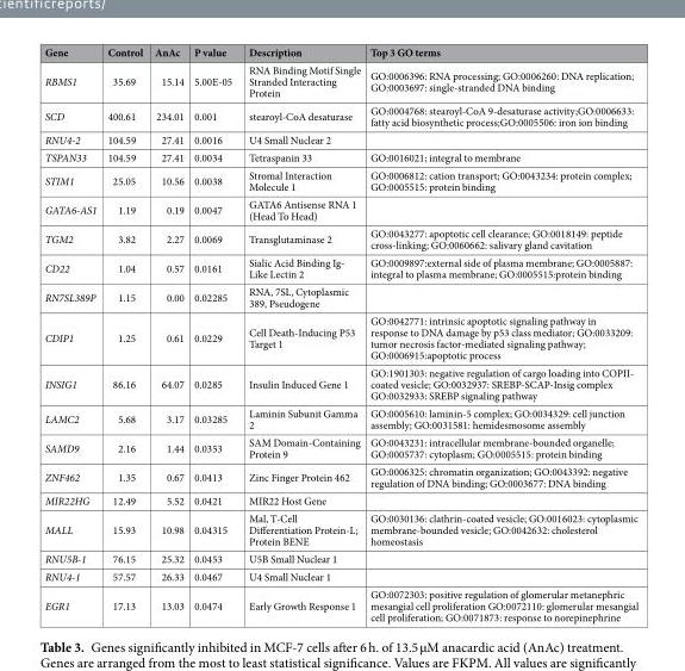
<table><thead><tr><td>Gene</td><td>Control</td><td>AnAc</td><td>P value</td><td>Description</td><td>Top 3 GO terms</td></tr></thead><tbody><tr><td>RBMS1</td><td>35.69</td><td>15.14</td><td>5.00E-05</td><td>RNA Binding Motif Single Stranded Interacting Protein</td><td>GO:0006396: RNA processing; GO:0006260: DNA replication; GO:0003697: single-stranded DNA binding</td></tr><tr><td>SCD</td><td>400.61</td><td>234.01</td><td>0.001</td><td>stearoyl-CoA desaturase</td><td>GO:0004768: stearoyl-CoA 9-desaturase activity;GO:0006633: fatty acid biosynthetic process;GO:0005506: iron ion binding</td></tr><tr><td>RNU4-2</td><td>104.59</td><td>27.41</td><td>0.0016</td><td>U4 Small Nuclear 2</td><td></td></tr><tr><td>TSPAN33</td><td>104.59</td><td>27.41</td><td>0.0034</td><td>Tetraspanin 33</td><td>GO:0016021; integral to membrane</td></tr><tr><td>STIM1</td><td>25.05</td><td>10.56</td><td>0.0038</td><td>Stromal Interaction Molecule 1</td><td>GO:0006812: cation transport; GO:0043234: protein complex; GO:0005515: protein binding</td></tr><tr><td>GATA6-AS1</td><td>1.19</td><td>0.19</td><td>0.0047</td><td>GATA6 Antisense RNA 1 (Head To Head)</td><td></td></tr><tr><td>TGM2</td><td>3.82</td><td>2.27</td><td>0.0069</td><td>Transglutaminase 2</td><td>GO:0043277: apoptotic cell clearance; GO:0018149: peptide cross-linking; GO:0060662: salivary gland cavitation</td></tr><tr><td>CD22</td><td>1.04</td><td>0.57</td><td>0.0161</td><td>Sialic Acid Binding Ig- Like Lectin 2</td><td>GO:0009897:external side of plasma membrane; GO:0005887: integral to plasma membrane; GO:0005515:protein binding</td></tr><tr><td>RN7SL389P</td><td>1.15</td><td>0.00</td><td>0.02285</td><td>RNA, 7SL, Cytoplasmic 389, Pseudogene</td><td></td></tr><tr><td>CDIP1</td><td>1.25</td><td>0.61</td><td>0.0229</td><td>Cell Death-Inducing P53 Target 1</td><td>GO:0042771: intrinsic apoptotic signaling pathway in response to DNA damage by p53 class mediator; GO:0033209: tumor necrosis factor-mediated signaling pathway; GO:0006915:apoptotic process</td></tr><tr><td>INSIG1</td><td>86.16</td><td>64.07</td><td>0.0285</td><td>Insulin Induced Gene 1</td><td>GO:1901303: negative regulation of cargo loading into COPII- coated vesicle; GO:0032937: SREBP-SCAP-Insig complex GO:0032933: SREBP signaling pathway</td></tr><tr><td>LAMC2</td><td>5.68</td><td>3.17</td><td>0.03285</td><td>Laminin Subunit Gamma 2</td><td>GO:0005610: laminin-5 complex; GO:0034329: cell junction assembly; GO:0031581: hemidesmosome assembly</td></tr><tr><td>SAMD9</td><td>2.16</td><td>1.44</td><td>0.0353</td><td>SAM Domain-Containing Protein 9</td><td>GO:0043231: intracellular membrane-bounded organelle; GO:0005737: cytoplasm; GO:0005515: protein binding</td></tr><tr><td>ZNF462</td><td>1.35</td><td>0.67</td><td>0.0413</td><td>Zinc Finger Protein 462</td><td>GO:0006325: chromatin organization; GO:0043392: negative regulation of DNA binding; GO:0003677: DNA binding</td></tr><tr><td>MIR22HG</td><td>12.49</td><td>5.52</td><td>0.0421</td><td>MIR22 Host Gene</td><td></td></tr><tr><td>MALL</td><td>15.93</td><td>10.98</td><td>0.04315</td><td>Mal, T-Cell Differentiation Protein-L; Protein BENE</td><td>GO:0030136: clathrin-coated vesicle; GO:0016023: cytoplasmic membrane-bounded vesicle; GO:0042632: cholesterol homeostasis</td></tr><tr><td>RNU5B-1</td><td>76.15</td><td>25.32</td><td>0.0453</td><td>U5B Small Nuclear 1</td><td></td></tr><tr><td>RNU4-1</td><td>57.57</td><td>26.33</td><td>0.0467</td><td>U4 Small Nuclear 1</td><td></td></tr><tr><td>EGR1</td><td>17.13</td><td>13.03</td><td>0.0474</td><td>Early Growth Response 1</td><td>GO:0072303: positive regulation of glomerular metanephric mesangial cell proliferation GO:0072110: glomerular mesangial cell proliferation; GO:0071873: response to norepinephrine</td></tr></tbody></table>